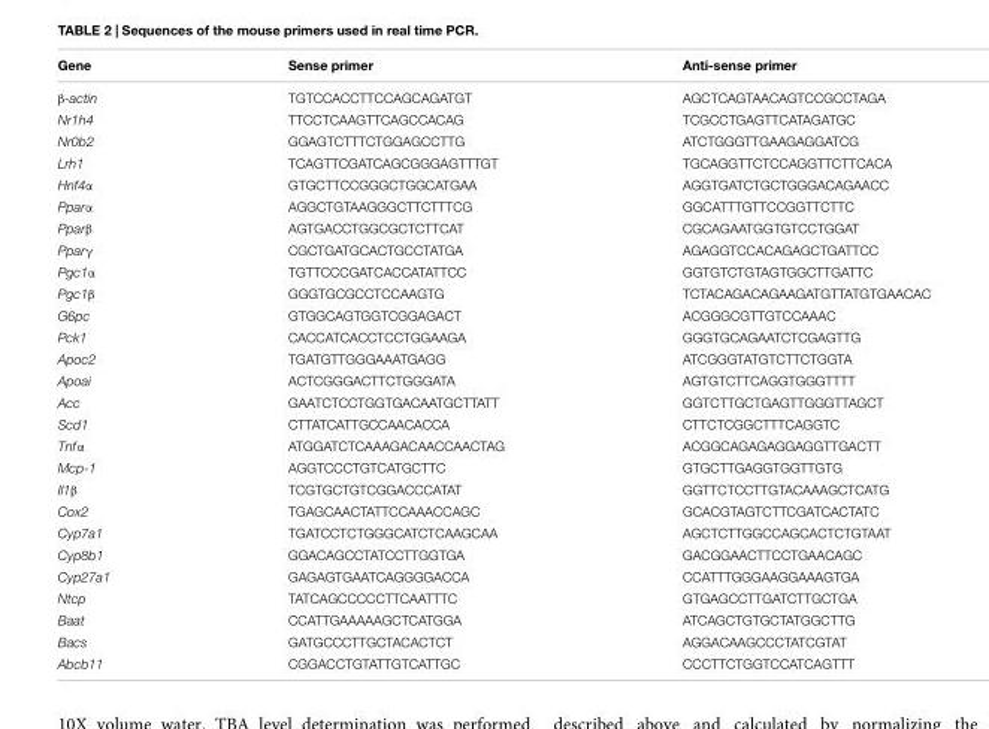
<table><thead><tr><td>Gene</td><td>Sense primer</td><td>Anti-sense primer</td></tr></thead><tbody><tr><td>β-actin</td><td>TGTCCACCTTCCAGCAGATGT</td><td>AGCTCAGTAACAGTCCGCCTAGA</td></tr><tr><td>Nr1h4</td><td>TTCCTCAAGTTCAGCCACAG</td><td>TCGCCTGAGTTCATAGATGC</td></tr><tr><td>Nr0b2</td><td>GGAGTCTTTCTGGAGCCTTG</td><td>ATCTGGGTTGAAGAGGATCG</td></tr><tr><td>Lrh1</td><td>TCAGTTCGATCAGCGGGAGTTTGT</td><td>TGCAGGTTCTCCAGGTTCTTCACA</td></tr><tr><td>Hnf4α</td><td>GTGCTTCCGGGCTGGCATGAA</td><td>AGGTGATCTGCTGGGACAGAACC</td></tr><tr><td>Pparα</td><td>AGGCTGTAAGGGCTTCTTTCG</td><td>GGCATTTGTTCCGGTTCTTC</td></tr><tr><td>Pparβ</td><td>AGTGACCTGGCGCTCTTCAT</td><td>CGCAGAATGGTGTCCTGGAT</td></tr><tr><td>Pparγ</td><td>CGCTGATGCACTGCCTATGA</td><td>AGAGGTCCACAGAGCTGATTCC</td></tr><tr><td>Pgc1α</td><td>TGTTCCCGATCACCATATTCC</td><td>GGTGTCTGTAGTGGCTTGATTC</td></tr><tr><td>Pgc1β</td><td>GGGTGCGCCTCCAAGTG</td><td>TCTACAGACAGAAGATGTTATGTGAACAC</td></tr><tr><td>G6pc</td><td>GTGGCAGTGGTCGGAGACT</td><td>ACGGGCGTTGTCCAAAC</td></tr><tr><td>Pck1</td><td>CACCATCACCTCCTGGAAGA</td><td>GGGTGCAGAATCTCGAGTTG</td></tr><tr><td>Apoc2</td><td>TGATGTTGGGAAATGAGG</td><td>ATCGGGTATGTCTTCTGGTA</td></tr><tr><td>Apoai</td><td>ACTCGGGACTTCTGGGATA</td><td>AGTGTCTTCAGGTGGGTTTT</td></tr><tr><td>Acc</td><td>GAATCTCCTGGTGACAATGCTTATT</td><td>GGTCTTGCTGAGTTGGGTTAGCT</td></tr><tr><td>Scd1</td><td>CTTATCATTGCCAACACCA</td><td>CTTCTCGGCTTTCAGGTC</td></tr><tr><td>Tnfα</td><td>ATGGATCTCAAAGACAACCAACTAG</td><td>ACGGCAGAGAGGAGGTTGACTT</td></tr><tr><td>Mcp-1</td><td>AGGTCCCTGTCATGCTTC</td><td>GTGCTTGAGGTGGTTGTG</td></tr><tr><td>Il1β</td><td>TCGTGCTGTCGGACCCATAT</td><td>GGTTCTCCTTGTACAAAGCTCATG</td></tr><tr><td>Cox2</td><td>TGAGCAACTATTCCAAACCAGC</td><td>GCACGTAGTCTTCGATCACTATC</td></tr><tr><td>Cyp7a1</td><td>TGATCCTCTGGGCATCTCAAGCAA</td><td>AGCTCTTGGCCAGCACTCTGTAAT</td></tr><tr><td>Cyp8b1</td><td>GGACAGCCTATCCTTGGTGA</td><td>GACGGAACTTCCTGAACAGC</td></tr><tr><td>Cyp27a1</td><td>GAGAGTGAATCAGGGGACCA</td><td>CCATTTGGGAAGGAAAGTGA</td></tr><tr><td>Ntcp</td><td>TATCAGCCCCCTTCAATTTC</td><td>GTGAGCCTTGATCTTGCTGA</td></tr><tr><td>Baat</td><td>CCATTGAAAAAGCTCATGGA</td><td>ATCAGCTGTGCTATGGCTTG</td></tr><tr><td>Bacs</td><td>GATGCCCTTGCTACACTCT</td><td>AGGACAAGCCCTATCGTAT</td></tr><tr><td>Abcb11</td><td>CGGACCTGTATTGTCATTGC</td><td>CCCTTCTGGTCCATCAGTTT</td></tr></tbody></table>